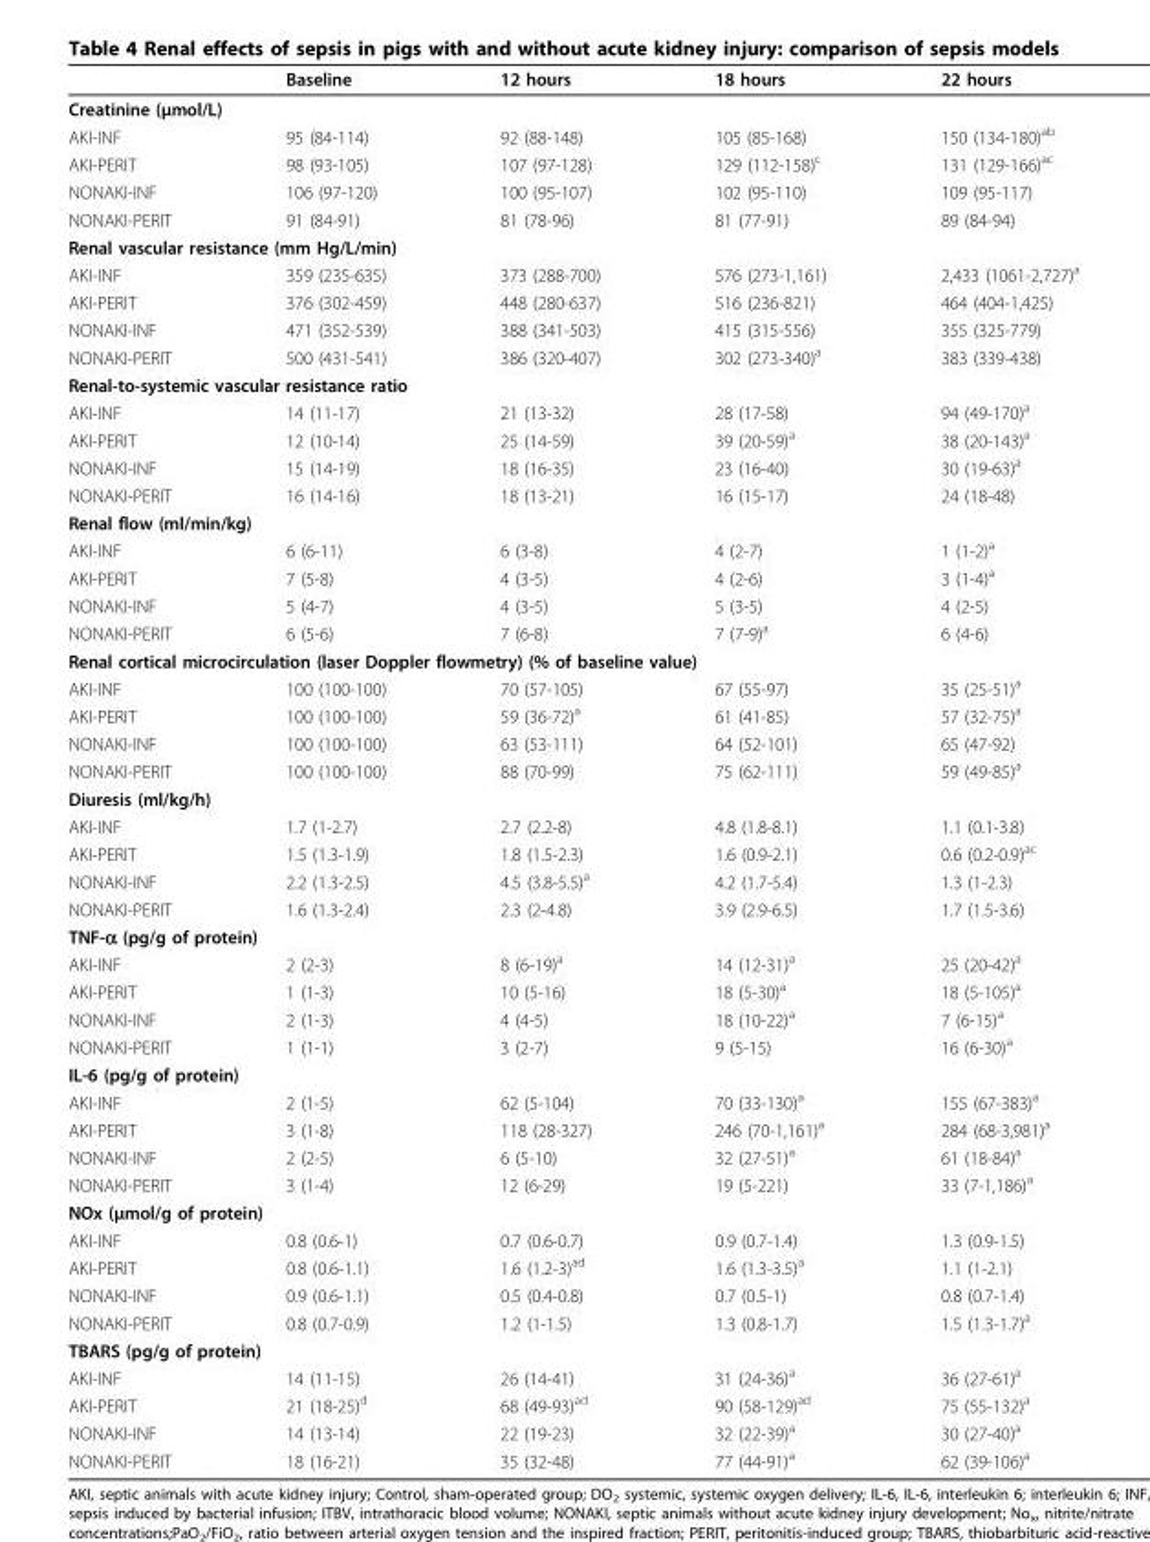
<table><thead><tr><td></td><td>Baseline</td><td>12 hours</td><td>18 hours</td><td>22 hours</td></tr></thead><tbody><tr><td colspan="5">Creatinine (μmol/L)</td></tr><tr><td>AKI-INF</td><td>95 (84-114)</td><td>92 (88-148)</td><td>105 (85-168)</td><td>150 (134-180)<sup>ab</sup></td></tr><tr><td>AKI-PERIT</td><td>98 (93-105)</td><td>107 (97-128)</td><td>129 (112-158)<sup>c</sup></td><td>131 (129-166)<sup>ac</sup></td></tr><tr><td>NONAKI-INF</td><td>106 (97-120)</td><td>100 (95-107)</td><td>102 (95-110)</td><td>109 (95-117)</td></tr><tr><td>NONAKI-PERIT</td><td>91 (84-91)</td><td>81 (78-96)</td><td>81 (77-91)</td><td>89 (84-94)</td></tr><tr><td colspan="5">Renal vascular resistance (mm Hg/L/min)</td></tr><tr><td>AKI-INF</td><td>359 (235-635)</td><td>373 (288-700)</td><td>576 (273-1,161)</td><td>2,433 (1061-2,727)<sup>a</sup></td></tr><tr><td>AKI-PERIT</td><td>376 (302-459)</td><td>448 (280-637)</td><td>516 (236-821)</td><td>464 (404-1,425)</td></tr><tr><td>NONAKI-INF</td><td>471 (352-539)</td><td>388 (341-503)</td><td>415 (315-556)</td><td>355 (325-779)</td></tr><tr><td>NONAKI-PERIT</td><td>500 (431-541)</td><td>386 (320-407)</td><td>302 (273-340)<sup>a</sup></td><td>383 (339-438)</td></tr><tr><td colspan="5">Renal-to-systemic vascular resistance ratio</td></tr><tr><td>AKI-INF</td><td>14 (11-17)</td><td>21 (13-32)</td><td>28 (17-58)</td><td>94 (49-170)<sup>a</sup></td></tr><tr><td>AKI-PERIT</td><td>12 (10-14)</td><td>25 (14-59)</td><td>39 (20-59)<sup>a</sup></td><td>38 (20-143)<sup>a</sup></td></tr><tr><td>NONAKI-INF</td><td>15 (14-19)</td><td>18 (16-35)</td><td>23 (16-40)</td><td>30 (19-63)<sup>a</sup></td></tr><tr><td>NONAKI-PERIT</td><td>16 (14-16)</td><td>18 (13-21)</td><td>16 (15-17)</td><td>24 (18-48)</td></tr><tr><td colspan="5">Renal flow (ml/min/kg)</td></tr><tr><td>AKI-INF</td><td>6 (6-11)</td><td>6 (3-8)</td><td>4 (2-7)</td><td>1 (1-2)<sup>a</sup></td></tr><tr><td>AKI-PERIT</td><td>7 (5-8)</td><td>4 (3-5)</td><td>4 (2-6)</td><td>3 (1-4)<sup>a</sup></td></tr><tr><td>NONAKI-INF</td><td>5 (4-7)</td><td>4 (3-5)</td><td>5 (3-5)</td><td>4 (2-5)</td></tr><tr><td>NONAKI-PERIT</td><td>6 (5-6)</td><td>7 (6-8)</td><td>7 (7-9)<sup>a</sup></td><td>6 (4-6)</td></tr><tr><td colspan="5">Renal cortical microcirculation (laser Doppler flowmetry) (% of baseline value)</td></tr><tr><td>AKI-INF</td><td>100 (100-100)</td><td>70 (57-105)</td><td>67 (55-97)</td><td>35 (25-51)<sup>a</sup></td></tr><tr><td>AKI-PERIT</td><td>100 (100-100)</td><td>59 (36-72)<sup>a</sup></td><td>61 (41-85)</td><td>57 (32-75)<sup>a</sup></td></tr><tr><td>NONAKI-INF</td><td>100 (100-100)</td><td>63 (53-111)</td><td>64 (52-101)</td><td>65 (47-92)</td></tr><tr><td>NONAKI-PERIT</td><td>100 (100-100)</td><td>88 (70-99)</td><td>75 (62-111)</td><td>59 (49-85)<sup>a</sup></td></tr><tr><td colspan="5">Diuresis (ml/kg/h)</td></tr><tr><td>AKI-INF</td><td>1.7 (1-2.7)</td><td>2.7 (2.2-8)</td><td>4.8 (1.8-8.1)</td><td>1.1 (0.1-3.8)</td></tr><tr><td>AKI-PERIT</td><td>1.5 (1.3-1.9)</td><td>1.8 (1.5-2.3)</td><td>1.6 (0.9-2.1)</td><td>0.6 (0.2-0.9)<sup>ac</sup></td></tr><tr><td>NONAKI-INF</td><td>2.2 (1.3-2.5)</td><td>4.5 (3.8-5.5)<sup>a</sup></td><td>4.2 (1.7-5.4)</td><td>1.3 (1-2.3)</td></tr><tr><td>NONAKI-PERIT</td><td>1.6 (1.3-2.4)</td><td>2.3 (2-4.8)</td><td>3.9 (2.9-6.5)</td><td>1.7 (1.5-3.6)</td></tr><tr><td colspan="5">TNF-α (pg/g of protein)</td></tr><tr><td>AKI-INF</td><td>2 (2-3)</td><td>8 (6-19)<sup>a</sup></td><td>14 (12-31)<sup>a</sup></td><td>25 (20-42)<sup>a</sup></td></tr><tr><td>AKI-PERIT</td><td>1 (1-3)</td><td>10 (5-16)</td><td>18 (5-30)<sup>a</sup></td><td>18 (5-105)<sup>a</sup></td></tr><tr><td>NONAKI-INF</td><td>2 (1-3)</td><td>4 (4-5)</td><td>18 (10-22)<sup>a</sup></td><td>7 (6-15)<sup>a</sup></td></tr><tr><td>NONAKI-PERIT</td><td>1 (1-1)</td><td>3 (2-7)</td><td>9 (5-15)</td><td>16 (6-30)<sup>a</sup></td></tr><tr><td colspan="5">IL-6 (pg/g of protein)</td></tr><tr><td>AKI-INF</td><td>2 (1-5)</td><td>62 (5-104)</td><td>70 (33-130)<sup>a</sup></td><td>155 (67-383)<sup>a</sup></td></tr><tr><td>AKI-PERIT</td><td>3 (1-8)</td><td>118 (28-327)</td><td>246 (70-1,161)<sup>a</sup></td><td>284 (68-3,981)<sup>a</sup></td></tr><tr><td>NONAKI-INF</td><td>2 (2-5)</td><td>6 (5-10)</td><td>32 (27-51)<sup>a</sup></td><td>61 (18-84)<sup>a</sup></td></tr><tr><td>NONAKI-PERIT</td><td>3 (1-4)</td><td>12 (6-29)</td><td>19 (5-221)</td><td>33 (7-1,186)<sup>a</sup></td></tr><tr><td colspan="5">NOx (μmol/g of protein)</td></tr><tr><td>AKI-INF</td><td>0.8 (0.6-1)</td><td>0.7 (0.6-0.7)</td><td>0.9 (0.7-1.4)</td><td>1.3 (0.9-1.5)</td></tr><tr><td>AKI-PERIT</td><td>0.8 (0.6-1.1)</td><td>1.6 (1.2-3)<sup>ad</sup></td><td>1.6 (1.3-3.5)<sup>a</sup></td><td>1.1 (1-2.1)</td></tr><tr><td>NONAKI-INF</td><td>0.9 (0.6-1.1)</td><td>0.5 (0.4-0.8)</td><td>0.7 (0.5-1)</td><td>0.8 (0.7-1.4)</td></tr><tr><td>NONAKI-PERIT</td><td>0.8 (0.7-0.9)</td><td>1.2 (1-1.5)</td><td>1.3 (0.8-1.7)</td><td>1.5 (1.3-1.7)<sup>a</sup></td></tr><tr><td colspan="5">TBARS (pg/g of protein)</td></tr><tr><td>AKI-INF</td><td>14 (11-15)</td><td>26 (14-41)</td><td>31 (24-36)<sup>a</sup></td><td>36 (27-61)<sup>a</sup></td></tr><tr><td>AKI-PERIT</td><td>21 (18-25)<sup>d</sup></td><td>68 (49-93)<sup>ad</sup></td><td>90 (58-129)<sup>ad</sup></td><td>75 (55-132)<sup>a</sup></td></tr><tr><td>NONAKI-INF</td><td>14 (13-14)</td><td>22 (19-23)</td><td>32 (22-39)<sup>a</sup></td><td>30 (27-40)<sup>a</sup></td></tr><tr><td>NONAKI-PERIT</td><td>18 (16-21)</td><td>35 (32-48)</td><td>77 (44-91)<sup>a</sup></td><td>62 (39-106)<sup>a</sup></td></tr></tbody></table>